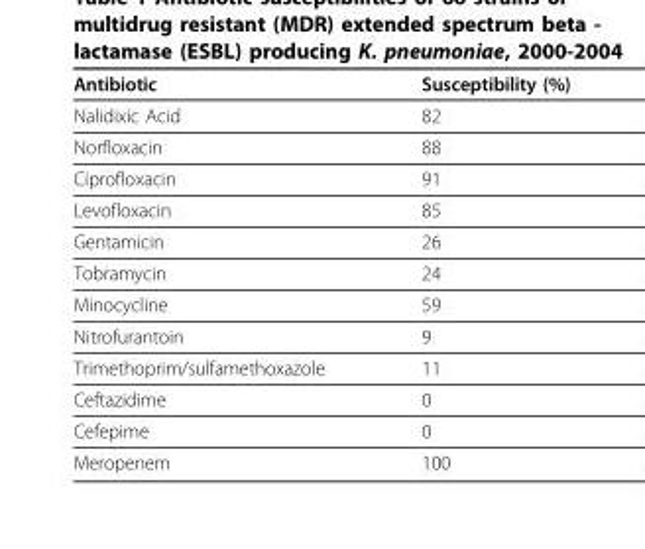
<table><thead><tr><td>Antibiotic</td><td>Susceptibility (%)</td></tr></thead><tbody><tr><td>Nalidixic Acid</td><td>82</td></tr><tr><td>Norfloxacin</td><td>88</td></tr><tr><td>Ciprofloxacin</td><td>91</td></tr><tr><td>Levofloxacin</td><td>85</td></tr><tr><td>Gentamicin</td><td>26</td></tr><tr><td>Tobramycin</td><td>24</td></tr><tr><td>Minocycline</td><td>59</td></tr><tr><td>Nitrofurantoin</td><td>9</td></tr><tr><td>Trimethoprim/sulfamethoxazole</td><td>11</td></tr><tr><td>Ceftazidime</td><td>0</td></tr><tr><td>Cefepime</td><td>0</td></tr><tr><td>Meropenem</td><td>100</td></tr></tbody></table>